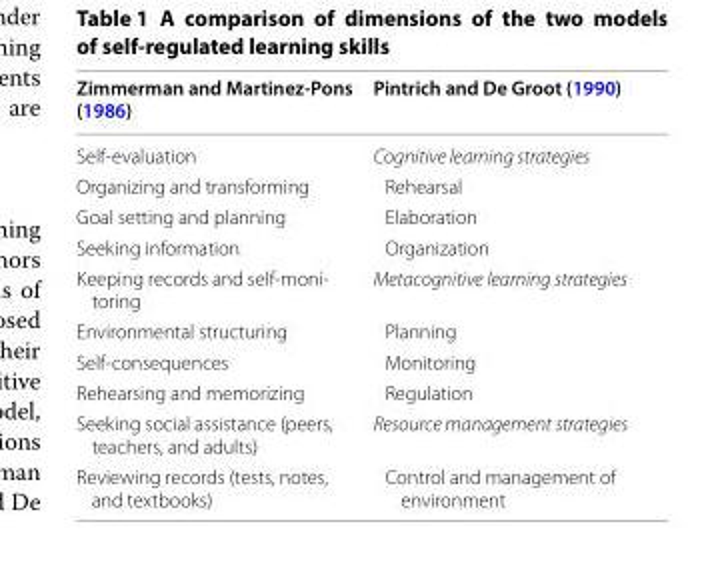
<table><thead><tr><td>Zimmerman and Martinez‑Pons (1986)</td><td>Pintrich and De Groot (1990)</td></tr></thead><tbody><tr><td>Self-evaluation</td><td>Cognitive learning strategies</td></tr><tr><td>Organizing and transforming</td><td>Rehearsal</td></tr><tr><td>Goal setting and planning</td><td>Elaboration</td></tr><tr><td>Seeking information</td><td>Organization</td></tr><tr><td>Keeping records and self-moni- toring</td><td>Metacognitive learning strategies</td></tr><tr><td>Environmental structuring</td><td>Planning</td></tr><tr><td>Self-consequences</td><td>Monitoring</td></tr><tr><td>Rehearsing and memorizing</td><td>Regulation</td></tr><tr><td>Seeking social assistance (peers, teachers, and adults)</td><td>Resource management strategies</td></tr><tr><td>Reviewing records (tests, notes, and textbooks)</td><td>Control and management of environment</td></tr></tbody></table>